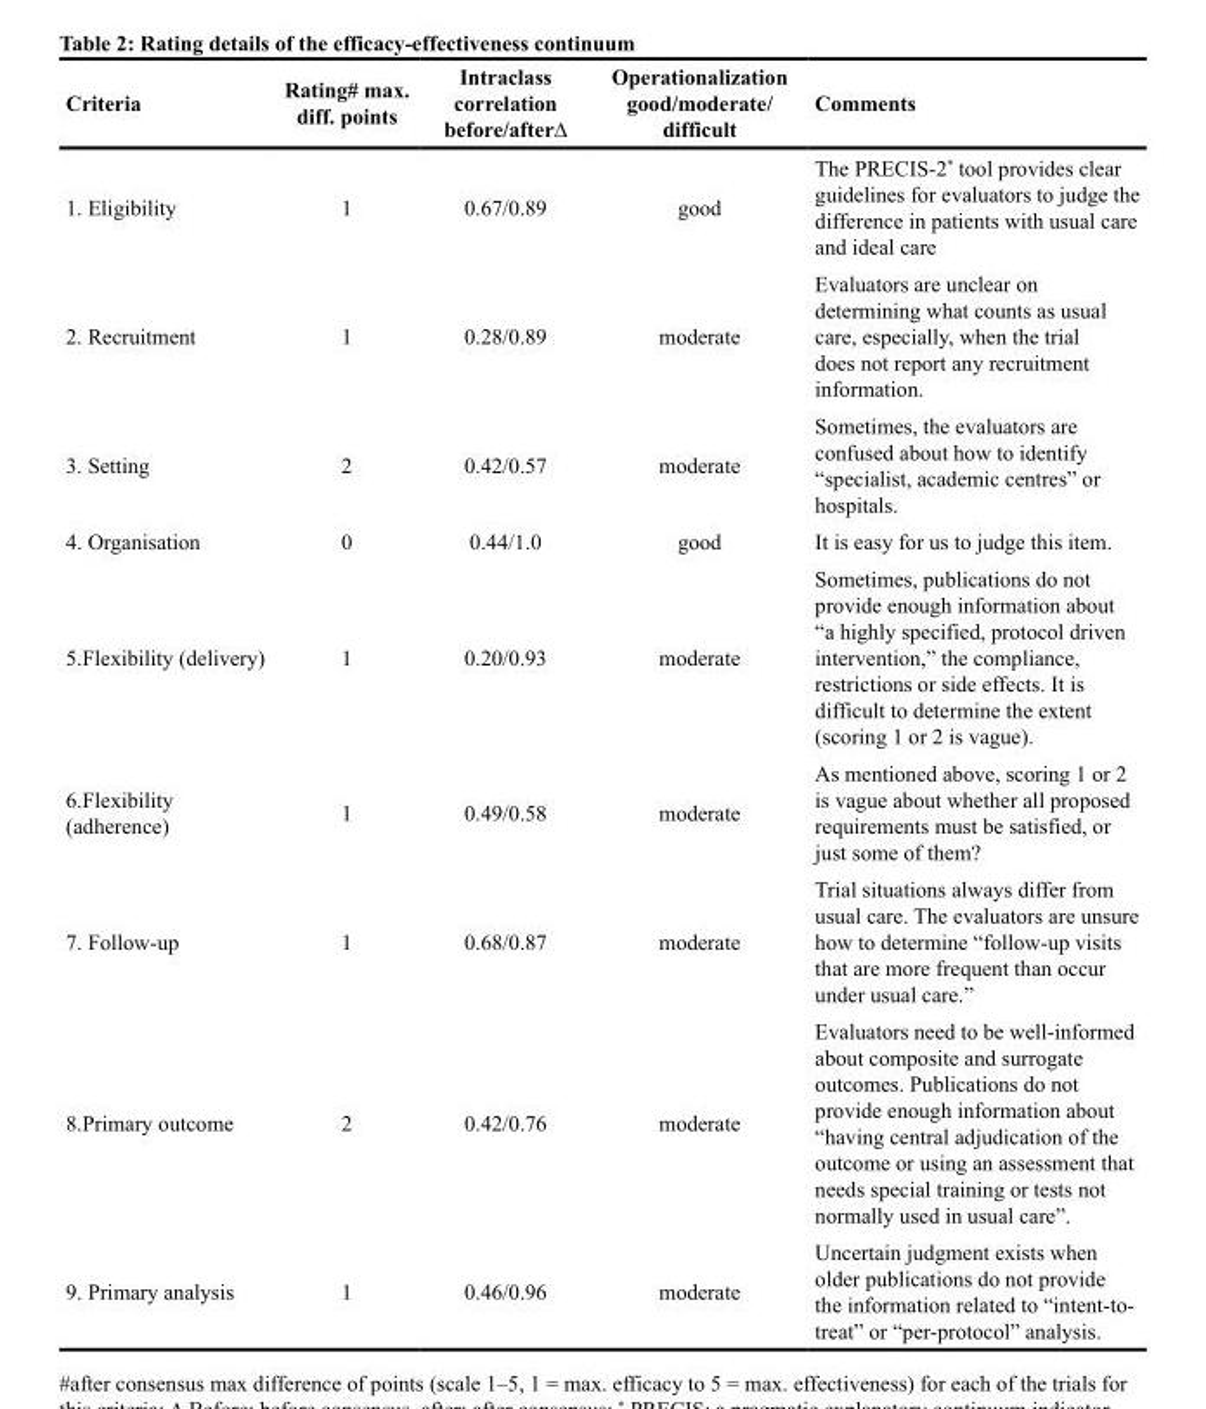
<table><thead><tr><td>Criteria</td><td>Rating# max. diff. points</td><td>Intraclass correlation before/after∆</td><td>Operationalization good/moderate/ difficult</td><td>Comments</td></tr></thead><tbody><tr><td>1. Eligibility</td><td>1</td><td>0.67/0.89</td><td>good</td><td>The PRECIS-2* tool provides clear guidelines for evaluators to judge the difference in patients with usual care and ideal care</td></tr><tr><td>2. Recruitment</td><td>1</td><td>0.28/0.89</td><td>moderate</td><td>Evaluators are unclear on determining what counts as usual care, especially, when the trial does not report any recruitment information.</td></tr><tr><td>3. Setting</td><td>2</td><td>0.42/0.57</td><td>moderate</td><td>Sometimes, the evaluators are confused about how to identify “specialist, academic centres” or hospitals.</td></tr><tr><td>4. Organisation</td><td>0</td><td>0.44/1.0</td><td>good</td><td>It is easy for us to judge this item.</td></tr><tr><td>5.Flexibility (delivery)</td><td>1</td><td>0.20/0.93</td><td>moderate</td><td>Sometimes, publications do not provide enough information about “a highly specified, protocol driven intervention,” the compliance, restrictions or side effects. It is difficult to determine the extent (scoring 1 or 2 is vague).</td></tr><tr><td>6.Flexibility (adherence)</td><td>1</td><td>0.49/0.58</td><td>moderate</td><td>As mentioned above, scoring 1 or 2 is vague about whether all proposed requirements must be satisfied, or just some of them?</td></tr><tr><td>7. Follow-up</td><td>1</td><td>0.68/0.87</td><td>moderate</td><td>Trial situations always differ from usual care. The evaluators are unsure how to determine “follow-up visits that are more frequent than occur under usual care.”</td></tr><tr><td>8.Primary outcome</td><td>2</td><td>0.42/0.76</td><td>moderate</td><td>Evaluators need to be well-informed about composite and surrogate outcomes. Publications do not provide enough information about “having central adjudication of the outcome or using an assessment that needs special training or tests not normally used in usual care”.</td></tr><tr><td>9. Primary analysis</td><td>1</td><td>0.46/0.96</td><td>moderate</td><td>Uncertain judgment exists when older publications do not provide the information related to “intent-to- treat” or “per-protocol” analysis.</td></tr></tbody></table>